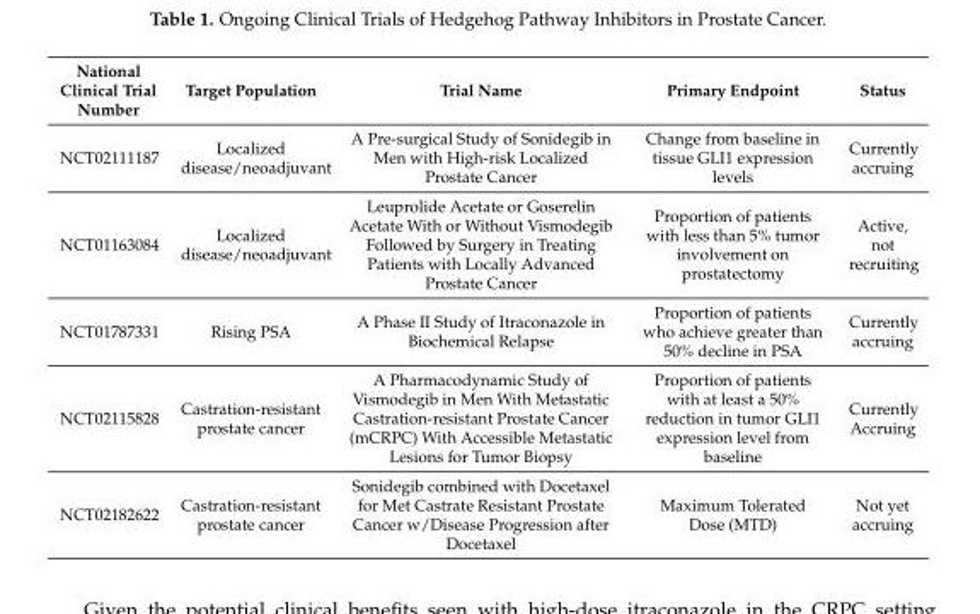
<table><thead><tr><td>National Clinical Trial Number</td><td>Target Population</td><td>Trial Name</td><td>Primary Endpoint</td><td>Status</td></tr></thead><tbody><tr><td>NCT02111187</td><td>Localized disease/neoadjuvant</td><td>A Pre-surgical Study of Sonidegib in Men with High-risk Localized Prostate Cancer</td><td>Change from baseline in tissue GLI1 expression levels</td><td>Currently accruing</td></tr><tr><td>NCT01163084</td><td>Localized disease/neoadjuvant</td><td>Leuprolide Acetate or Goserelin Acetate With or Without Vismodegib Followed by Surgery in Treating Patients with Locally Advanced Prostate Cancer</td><td>Proportion of patients with less than 5% tumor involvement on prostatectomy</td><td>Active, not recruiting</td></tr><tr><td>NCT01787331</td><td>Rising PSA</td><td>A Phase II Study of Itraconazole in Biochemical Relapse</td><td>Proportion of patients who achieve greater than 50% decline in PSA</td><td>Currently accruing</td></tr><tr><td>NCT02115828</td><td>Castration-resistant prostate cancer</td><td>A Pharmacodynamic Study of Vismodegib in Men With Metastatic Castration-resistant Prostate Cancer (mCRPC) With Accessible Metastatic Lesions for Tumor Biopsy</td><td>Proportion of patients with at least a 50% reduction in tumor GLI1 expression level from baseline</td><td>Currently Accruing</td></tr><tr><td>NCT02182622</td><td>Castration-resistant prostate cancer</td><td>Sonidegib combined with Docetaxel for Met Castrate Resistant Prostate Cancer w/Disease Progression after Docetaxel</td><td>Maximum Tolerated Dose (MTD)</td><td>Not yet accruing</td></tr></tbody></table>